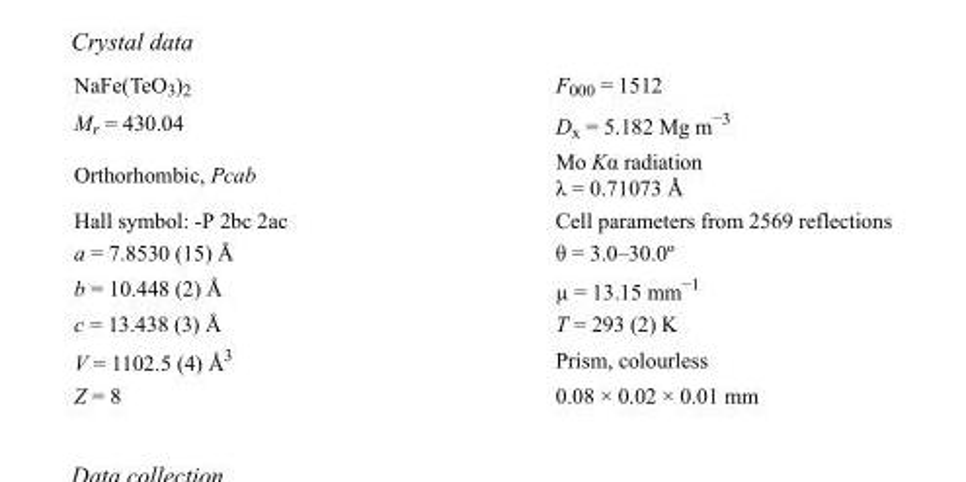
<table><tbody><tr><td>NaFe(TeO<sub>3</sub>)<sub>2</sub></td><td>F<sub>000</sub> = 1512</td></tr><tr><td>M<sub>r</sub> = 430.04</td><td>D<sub>x</sub> = 5.182 Mg m<sup>−3</sup></td></tr><tr><td>Orthorhombic, Pcab</td><td>Mo Kα radiation λ = 0.71073 Å</td></tr><tr><td>Hall symbol: -P 2bc 2ac</td><td>Cell parameters from 2569 reflections</td></tr><tr><td>a = 7.8530 (15) Å</td><td>θ = 3.0–30.0º</td></tr><tr><td>b = 10.448 (2) Å</td><td>µ = 13.15 mm<sup>−1</sup></td></tr><tr><td>c = 13.438 (3) Å</td><td>T = 293 (2) K</td></tr><tr><td>V = 1102.5 (4) Å<sup>3</sup></td><td>Prism, colourless</td></tr><tr><td>Z = 8</td><td>0.08 × 0.02 × 0.01 mm</td></tr></tbody></table>